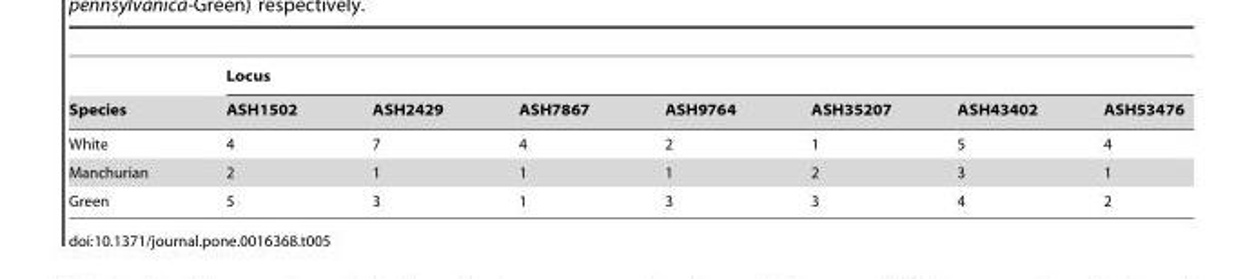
<table><thead><tr><td rowspan="2">Species</td><td colspan="7">Locus</td></tr><tr><td>ASH1502</td><td>ASH2429</td><td>ASH7867</td><td>ASH9764</td><td>ASH35207</td><td>ASH43402</td><td>ASH53476</td></tr></thead><tbody><tr><td>White</td><td>4</td><td>7</td><td>4</td><td>2</td><td>1</td><td>5</td><td>4</td></tr><tr><td>Manchurian</td><td>2</td><td>1</td><td>1</td><td>1</td><td>2</td><td>3</td><td>1</td></tr><tr><td>Green</td><td>5</td><td>3</td><td>1</td><td>3</td><td>3</td><td>4</td><td>2</td></tr></tbody></table>